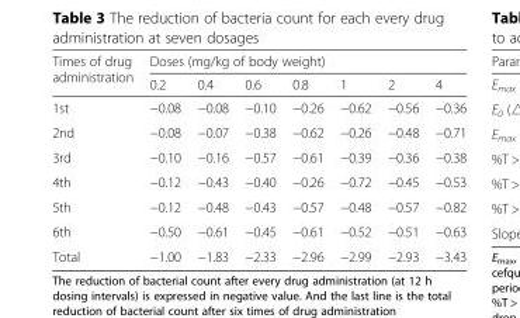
<table><thead><tr><td rowspan="2">Times of drug administration</td><td colspan="7">Doses (mg/kg of body weight)</td></tr><tr><td>0.2</td><td>0.4</td><td>0.6</td><td>0.8</td><td>1</td><td>2</td><td>4</td></tr></thead><tbody><tr><td>1st</td><td>−0.08</td><td>−0.08</td><td>−0.10</td><td>−0.26</td><td>−0.62</td><td>−0.56</td><td>−0.36</td></tr><tr><td>2nd</td><td>−0.08</td><td>−0.07</td><td>−0.38</td><td>−0.62</td><td>−0.26</td><td>−0.48</td><td>−0.71</td></tr><tr><td>3rd</td><td>−0.10</td><td>−0.16</td><td>−0.57</td><td>−0.61</td><td>−0.39</td><td>−0.36</td><td>−0.38</td></tr><tr><td>4th</td><td>−0.12</td><td>−0.43</td><td>−0.40</td><td>−0.26</td><td>−0.72</td><td>−0.45</td><td>−0.53</td></tr><tr><td>5th</td><td>−0.12</td><td>−0.48</td><td>−0.43</td><td>−0.57</td><td>−0.48</td><td>−0.57</td><td>−0.82</td></tr><tr><td>6th</td><td>−0.50</td><td>−0.61</td><td>−0.45</td><td>−0.61</td><td>−0.52</td><td>−0.51</td><td>−0.63</td></tr><tr><td>Total</td><td>−1.00</td><td>−1.83</td><td>−2.33</td><td>−2.96</td><td>−2.99</td><td>−2.93</td><td>−3.43</td></tr></tbody></table>